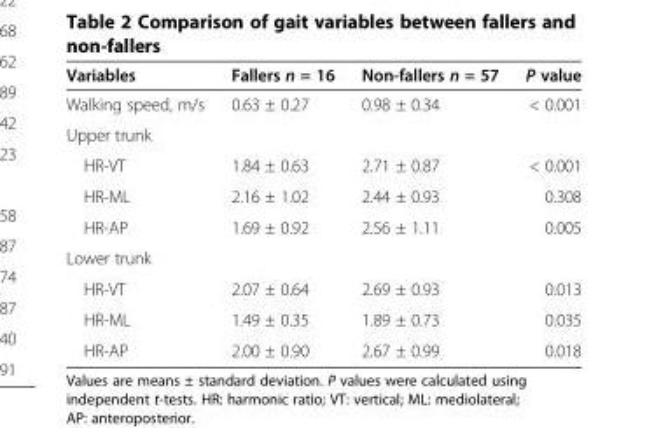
<table><thead><tr><td>Variables</td><td>Fallers n = 16</td><td>Non-fallers n = 57</td><td>P value</td></tr></thead><tbody><tr><td>Walking speed, m/s</td><td>0.63 ± 0.27</td><td>0.98 ± 0.34</td><td>&lt; 0.001</td></tr><tr><td colspan="4">Upper trunk</td></tr><tr><td>HR-VT</td><td>1.84 ± 0.63</td><td>2.71 ± 0.87</td><td>&lt; 0.001</td></tr><tr><td>HR-ML</td><td>2.16 ± 1.02</td><td>2.44 ± 0.93</td><td>0.308</td></tr><tr><td>HR-AP</td><td>1.69 ± 0.92</td><td>2.56 ± 1.11</td><td>0.005</td></tr><tr><td colspan="4">Lower trunk</td></tr><tr><td>HR-VT</td><td>2.07 ± 0.64</td><td>2.69 ± 0.93</td><td>0.013</td></tr><tr><td>HR-ML</td><td>1.49 ± 0.35</td><td>1.89 ± 0.73</td><td>0.035</td></tr><tr><td>HR-AP</td><td>2.00 ± 0.90</td><td>2.67 ± 0.99</td><td>0.018</td></tr></tbody></table>